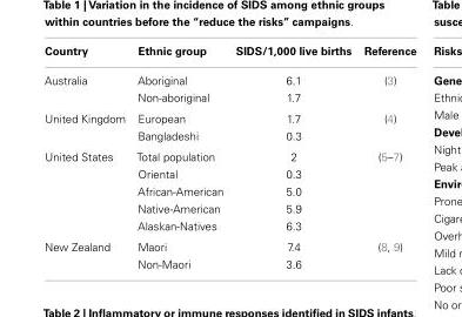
<table><thead><tr><td>Country</td><td>Ethnic group</td><td>SIDS/1,000 live births</td><td>Reference</td></tr></thead><tbody><tr><td rowspan="2">Australia</td><td>Aboriginal</td><td>6.1</td><td>(3)</td></tr><tr><td>Non-aboriginal</td><td>1.7</td><td></td></tr><tr><td rowspan="2">United Kingdom</td><td>European</td><td>1.7</td><td>(4)</td></tr><tr><td>Bangladeshi</td><td>0.3</td><td></td></tr><tr><td rowspan="5">United States</td><td>Total population</td><td>2</td><td>(5–7)</td></tr><tr><td>Oriental</td><td>0.3</td><td></td></tr><tr><td>African-American</td><td>5.0</td><td></td></tr><tr><td>Native-American</td><td>5.9</td><td></td></tr><tr><td>Alaskan-Natives</td><td>6.3</td><td></td></tr><tr><td rowspan="2">New Zealand</td><td>Maori</td><td>7.4</td><td>(8, 9)</td></tr><tr><td>Non-Maori</td><td>3.6</td><td></td></tr></tbody></table>